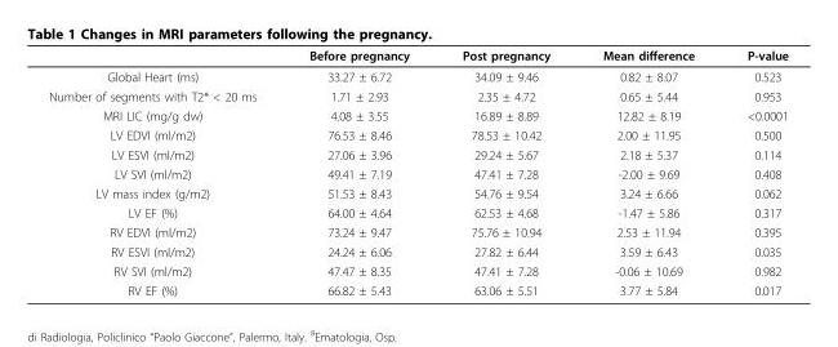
<table><thead><tr><td></td><td>Before pregnancy</td><td>Post pregnancy</td><td>Mean difference</td><td>P-value</td></tr></thead><tbody><tr><td>Global Heart (ms)</td><td>33.27 ± 6.72</td><td>34.09 ± 9.46</td><td>0.82 ± 8.07</td><td>0.523</td></tr><tr><td>Number of segments with T2* &lt; 20 ms</td><td>1.71 ± 2.93</td><td>2.35 ± 4.72</td><td>0.65 ± 5.44</td><td>0.953</td></tr><tr><td>MRI LIC (mg/g dw)</td><td>4.08 ± 3.55</td><td>16.89 ± 8.89</td><td>12.82 ± 8.19</td><td>&lt;0.0001</td></tr><tr><td>LV EDVI (ml/m2)</td><td>76.53 ± 8.46</td><td>78.53 ± 10.42</td><td>2.00 ± 11.95</td><td>0.500</td></tr><tr><td>LV ESVI (ml/m2)</td><td>27.06 ± 3.96</td><td>29.24 ± 5.67</td><td>2.18 ± 5.37</td><td>0.114</td></tr><tr><td>LV SVI (ml/m2)</td><td>49.41 ± 7.19</td><td>47.41 ± 7.28</td><td>-2.00 ± 9.69</td><td>0.408</td></tr><tr><td>LV mass index (g/m2)</td><td>51.53 ± 8.43</td><td>54.76 ± 9.54</td><td>3.24 ± 6.66</td><td>0.062</td></tr><tr><td>LV EF (%)</td><td>64.00 ± 4.64</td><td>62.53 ± 4.68</td><td>-1.47 ± 5.86</td><td>0.317</td></tr><tr><td>RV EDVI (ml/m2)</td><td>73.24 ± 9.47</td><td>75.76 ± 10.94</td><td>2.53 ± 11.94</td><td>0.395</td></tr><tr><td>RV ESVI (ml/m2)</td><td>24.24 ± 6.06</td><td>27.82 ± 6.44</td><td>3.59 ± 6.43</td><td>0.035</td></tr><tr><td>RV SVI (ml/m2)</td><td>47.47 ± 8.35</td><td>47.41 ± 7.28</td><td>-0.06 ± 10.69</td><td>0.982</td></tr><tr><td>RV EF (%)</td><td>66.82 ± 5.43</td><td>63.06 ± 5.51</td><td>3.77 ± 5.84</td><td>0.017</td></tr></tbody></table>